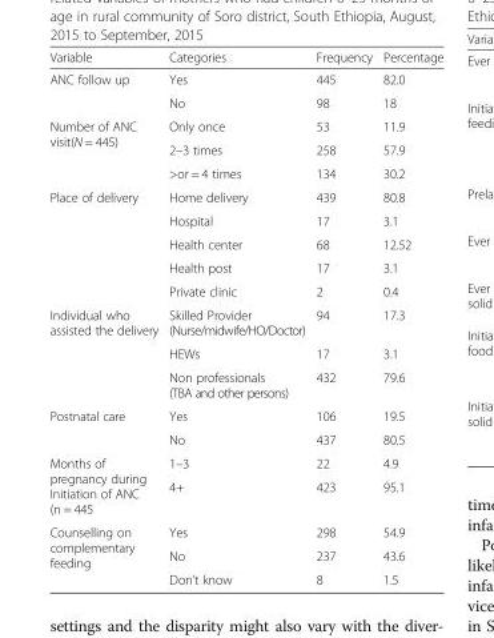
<table><thead><tr><td>Variable</td><td>Categories</td><td>Frequency</td><td>Percentage</td></tr></thead><tbody><tr><td rowspan="2">ANC follow up</td><td>Yes</td><td>445</td><td>82.0</td></tr><tr><td>No</td><td>98</td><td>18</td></tr><tr><td rowspan="3">Number of ANC visit(N = 445)</td><td>Only once</td><td>53</td><td>11.9</td></tr><tr><td>2–3 times</td><td>258</td><td>57.9</td></tr><tr><td>&gt;or = 4 times</td><td>134</td><td>30.2</td></tr><tr><td rowspan="5">Place of delivery</td><td>Home delivery</td><td>439</td><td>80.8</td></tr><tr><td>Hospital</td><td>17</td><td>3.1</td></tr><tr><td>Health center</td><td>68</td><td>12.52</td></tr><tr><td>Health post</td><td>17</td><td>3.1</td></tr><tr><td>Private clinic</td><td>2</td><td>0.4</td></tr><tr><td rowspan="3">Individual who assisted the delivery</td><td>Skilled Provider (Nurse/midwife/HO/Doctor)</td><td>94</td><td>17.3</td></tr><tr><td>HEWs</td><td>17</td><td>3.1</td></tr><tr><td>Non professionals (TBA and other persons)</td><td>432</td><td>79.6</td></tr><tr><td rowspan="2">Postnatal care</td><td>Yes</td><td>106</td><td>19.5</td></tr><tr><td>No</td><td>437</td><td>80.5</td></tr><tr><td rowspan="2">Months of pregnancy during Initiation of ANC (n = 445</td><td>1–3</td><td>22</td><td>4.9</td></tr><tr><td>4+</td><td>423</td><td>95.1</td></tr><tr><td rowspan="3">Counselling on complementary feeding</td><td>Yes</td><td>298</td><td>54.9</td></tr><tr><td>No</td><td>237</td><td>43.6</td></tr><tr><td>Don’t know</td><td>8</td><td>1.5</td></tr></tbody></table>